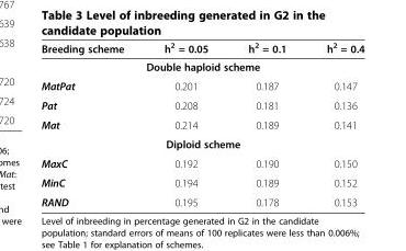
<table><thead><tr><td>Breeding scheme</td><td>h<sup>2</sup> = 0.05</td><td>h<sup>2</sup> = 0.1</td><td>h<sup>2</sup> = 0.4</td></tr></thead><tbody><tr><td colspan="4">Double haploid scheme</td></tr><tr><td>MatPat</td><td>0.201</td><td>0.187</td><td>0.147</td></tr><tr><td>Pat</td><td>0.208</td><td>0.181</td><td>0.136</td></tr><tr><td>Mat</td><td>0.214</td><td>0.189</td><td>0.141</td></tr><tr><td colspan="4">Diploid scheme</td></tr><tr><td>MaxC</td><td>0.192</td><td>0.190</td><td>0.150</td></tr><tr><td>MinC</td><td>0.194</td><td>0.189</td><td>0.152</td></tr><tr><td>RAND</td><td>0.195</td><td>0.178</td><td>0.153</td></tr></tbody></table>